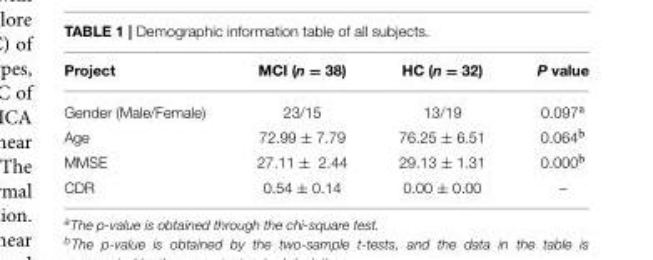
<table><thead><tr><td>Project</td><td>MCI (n = 38)</td><td>HC (n = 32)</td><td>P value</td></tr></thead><tbody><tr><td>Gender (Male/Female)</td><td>23/15</td><td>13/19</td><td>0.097<sup>a</sup></td></tr><tr><td>Age</td><td>72.99 ± 7.79</td><td>76.25 ± 6.51</td><td>0.064<sup>b</sup></td></tr><tr><td>MMSE</td><td>27.11 ± 2.44</td><td>29.13 ± 1.31</td><td>0.000<sup>b</sup></td></tr><tr><td>CDR</td><td>0.54 ± 0.14</td><td>0.00 ± 0.00</td><td>–</td></tr></tbody></table>